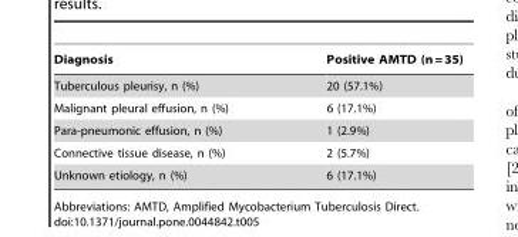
<table><thead><tr><td>Diagnosis</td><td>Positive AMTD (n = 35)</td></tr></thead><tbody><tr><td>Tuberculous pleurisy, n (%)</td><td>20 (57.1%)</td></tr><tr><td>Malignant pleural effusion, n (%)</td><td>6 (17.1%)</td></tr><tr><td>Para-pneumonic effusion, n (%)</td><td>1 (2.9%)</td></tr><tr><td>Connective tissue disease, n (%)</td><td>2 (5.7%)</td></tr><tr><td>Unknown etiology, n (%)</td><td>6 (17.1%)</td></tr></tbody></table>